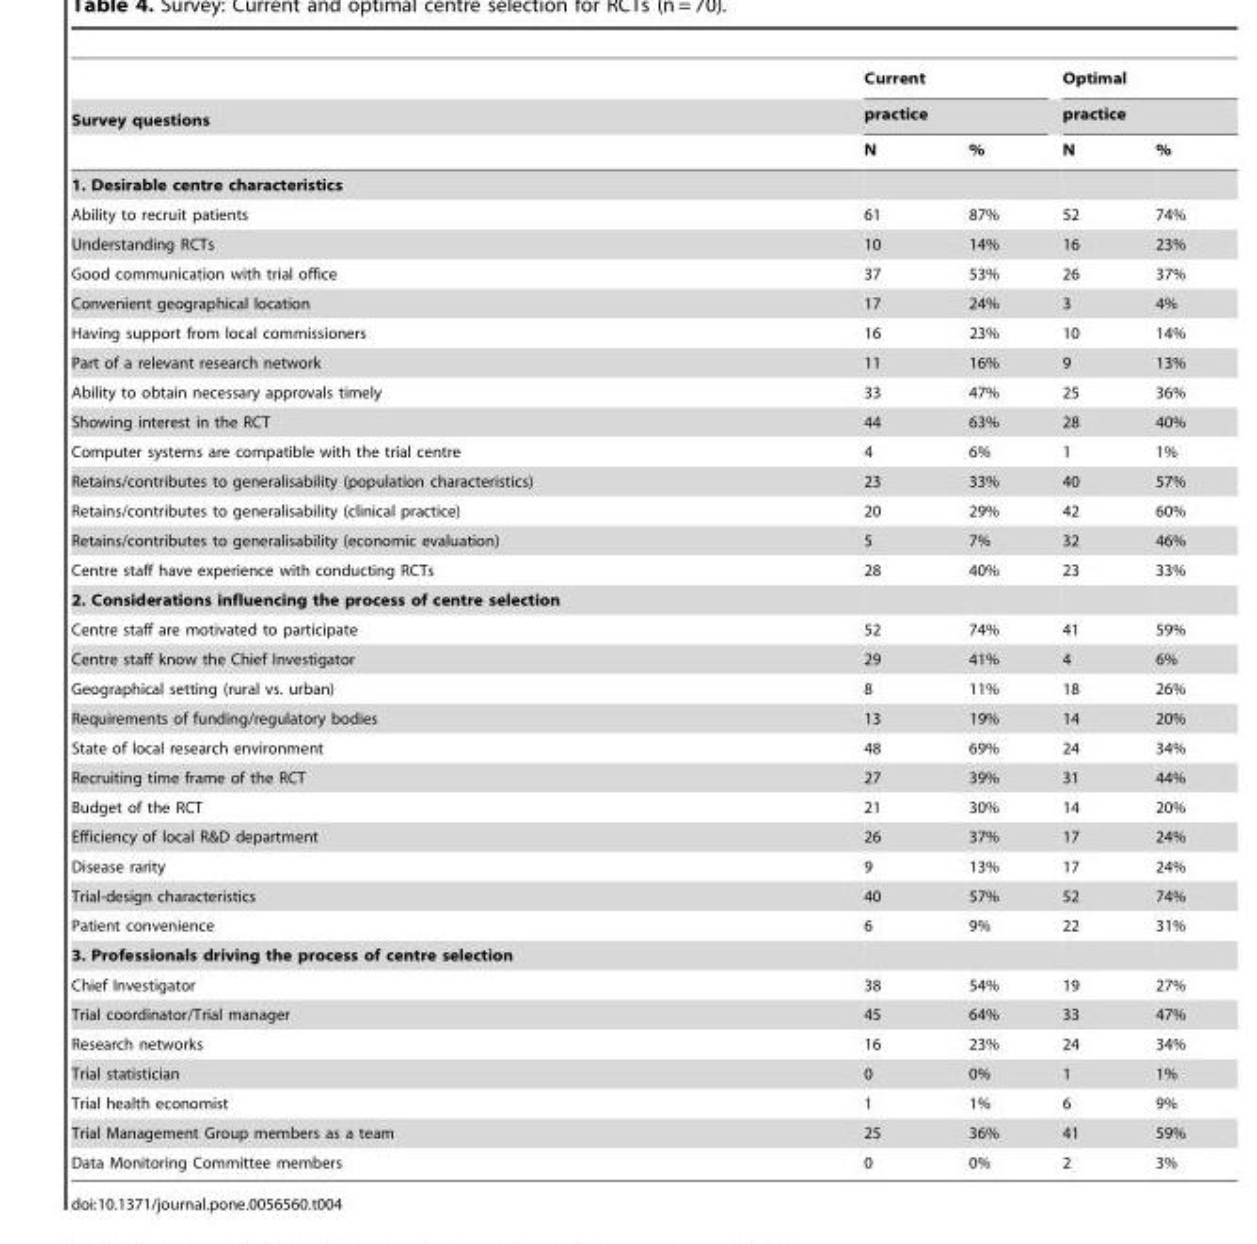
<table><thead><tr><td rowspan="3">Survey questions</td><td rowspan="2" colspan="2">Current practice</td><td rowspan="2" colspan="2">Optimal practice</td></tr><tr></tr><tr><td>N</td><td>%</td><td>N</td><td>%</td></tr></thead><tbody><tr><td colspan="5">1. Desirable centre characteristics</td></tr><tr><td>Ability to recruit patients</td><td>61</td><td>87%</td><td>52</td><td>74%</td></tr><tr><td>Understanding RCTs</td><td>10</td><td>14%</td><td>16</td><td>23%</td></tr><tr><td>Good communication with trial office</td><td>37</td><td>53%</td><td>26</td><td>37%</td></tr><tr><td>Convenient geographical location</td><td>17</td><td>24%</td><td>3</td><td>4%</td></tr><tr><td>Having support from local commissioners</td><td>16</td><td>23%</td><td>10</td><td>14%</td></tr><tr><td>Part of a relevant research network</td><td>11</td><td>16%</td><td>9</td><td>13%</td></tr><tr><td>Ability to obtain necessary approvals timely</td><td>33</td><td>47%</td><td>25</td><td>36%</td></tr><tr><td>Showing interest in the RCT</td><td>44</td><td>63%</td><td>28</td><td>40%</td></tr><tr><td>Computer systems are compatible with the trial centre</td><td>4</td><td>6%</td><td>1</td><td>1%</td></tr><tr><td>Retains/contributes to generalisability (population characteristics)</td><td>23</td><td>33%</td><td>40</td><td>57%</td></tr><tr><td>Retains/contributes to generalisability (clinical practice)</td><td>20</td><td>29%</td><td>42</td><td>60%</td></tr><tr><td>Retains/contributes to generalisability (economic evaluation)</td><td>5</td><td>7%</td><td>32</td><td>46%</td></tr><tr><td>Centre staff have experience with conducting RCTs</td><td>28</td><td>40%</td><td>23</td><td>33%</td></tr><tr><td colspan="5">2. Considerations influencing the process of centre selection</td></tr><tr><td>Centre staff are motivated to participate</td><td>52</td><td>74%</td><td>41</td><td>59%</td></tr><tr><td>Centre staff know the Chief Investigator</td><td>29</td><td>41%</td><td>4</td><td>6%</td></tr><tr><td>Geographical setting (rural vs. urban)</td><td>8</td><td>11%</td><td>18</td><td>26%</td></tr><tr><td>Requirements of funding/regulatory bodies</td><td>13</td><td>19%</td><td>14</td><td>20%</td></tr><tr><td>State of local research environment</td><td>48</td><td>69%</td><td>24</td><td>34%</td></tr><tr><td>Recruiting time frame of the RCT</td><td>27</td><td>39%</td><td>31</td><td>44%</td></tr><tr><td>Budget of the RCT</td><td>21</td><td>30%</td><td>14</td><td>20%</td></tr><tr><td>Efficiency of local R&amp;D department</td><td>26</td><td>37%</td><td>17</td><td>24%</td></tr><tr><td>Disease rarity</td><td>9</td><td>13%</td><td>17</td><td>24%</td></tr><tr><td>Trial-design characteristics</td><td>40</td><td>57%</td><td>52</td><td>74%</td></tr><tr><td>Patient convenience</td><td>6</td><td>9%</td><td>22</td><td>31%</td></tr><tr><td colspan="5">3. Professionals driving the process of centre selection</td></tr><tr><td>Chief Investigator</td><td>38</td><td>54%</td><td>19</td><td>27%</td></tr><tr><td>Trial coordinator/Trial manager</td><td>45</td><td>64%</td><td>33</td><td>47%</td></tr><tr><td>Research networks</td><td>16</td><td>23%</td><td>24</td><td>34%</td></tr><tr><td>Trial statistician</td><td>0</td><td>0%</td><td>1</td><td>1%</td></tr><tr><td>Trial health economist</td><td>1</td><td>1%</td><td>6</td><td>9%</td></tr><tr><td>Trial Management Group members as a team</td><td>25</td><td>36%</td><td>41</td><td>59%</td></tr><tr><td>Data Monitoring Committee members</td><td>0</td><td>0%</td><td>2</td><td>3%</td></tr></tbody></table>